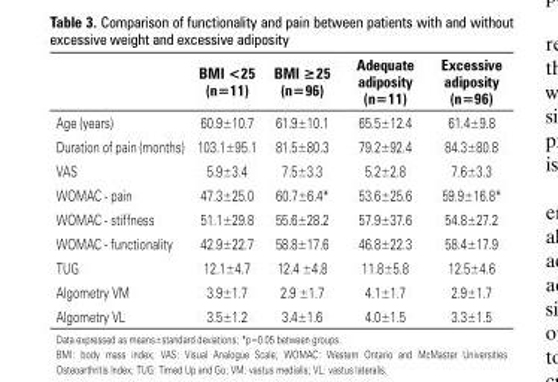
<table><thead><tr><td></td><td>BMI &lt;25 (n=11)</td><td>BMI ≥25 (n=96)</td><td>Adequate adiposity (n=11)</td><td>Excessive adiposity (n=96)</td></tr></thead><tbody><tr><td>Age (years)</td><td>60.9±10.7</td><td>61.9±10.1</td><td>65.5±12.4</td><td>61.4±9.8</td></tr><tr><td>Duration of pain (months)</td><td>103.1±95.1</td><td>81.5±80.3</td><td>79.2±92.4</td><td>84.3±80.8</td></tr><tr><td>VAS</td><td>5.9±3.4</td><td>7.5±3.3</td><td>5.2±2.8</td><td>7.6±3.3</td></tr><tr><td>WOMAC - pain</td><td>47.3±25.0</td><td>60.7±6.4*</td><td>53.6±25.6</td><td>59.9±16.8*</td></tr><tr><td>WOMAC - stiffness</td><td>51.1±29.8</td><td>55.6±28.2</td><td>57.9±37.6</td><td>54.8±27.2</td></tr><tr><td>WOMAC - functionality</td><td>42.9±22.7</td><td>58.8±17.6</td><td>46.8±22.3</td><td>58.4±17.9</td></tr><tr><td>TUG</td><td>12.1±4.7</td><td>12.4 ±4.8</td><td>11.8±5.8</td><td>12.5±4.6</td></tr><tr><td>Algometry VM</td><td>3.9±1.7</td><td>2.9 ±1.7</td><td>4.1±1.7</td><td>2.9±1.7</td></tr><tr><td>Algometry VL</td><td>3.5±1.2</td><td>3.4±1.6</td><td>4.0±1.5</td><td>3.3±1.5</td></tr></tbody></table>